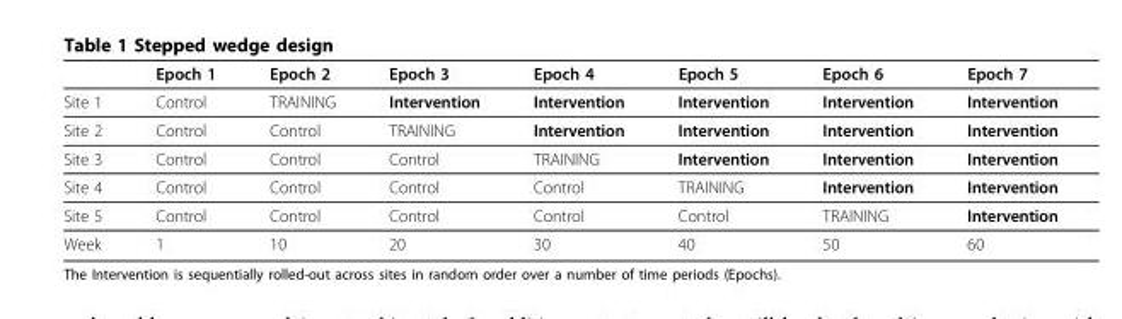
<table><thead><tr><td></td><td>Epoch 1</td><td>Epoch 2</td><td>Epoch 3</td><td>Epoch 4</td><td>Epoch 5</td><td>Epoch 6</td><td>Epoch 7</td></tr></thead><tbody><tr><td>Site 1</td><td>Control</td><td>TRAINING</td><td>Intervention</td><td>Intervention</td><td>Intervention</td><td>Intervention</td><td>Intervention</td></tr><tr><td>Site 2</td><td>Control</td><td>Control</td><td>TRAINING</td><td>Intervention</td><td>Intervention</td><td>Intervention</td><td>Intervention</td></tr><tr><td>Site 3</td><td>Control</td><td>Control</td><td>Control</td><td>TRAINING</td><td>Intervention</td><td>Intervention</td><td>Intervention</td></tr><tr><td>Site 4</td><td>Control</td><td>Control</td><td>Control</td><td>Control</td><td>TRAINING</td><td>Intervention</td><td>Intervention</td></tr><tr><td>Site 5</td><td>Control</td><td>Control</td><td>Control</td><td>Control</td><td>Control</td><td>TRAINING</td><td>Intervention</td></tr><tr><td>Week</td><td>1</td><td>10</td><td>20</td><td>30</td><td>40</td><td>50</td><td>60</td></tr></tbody></table>